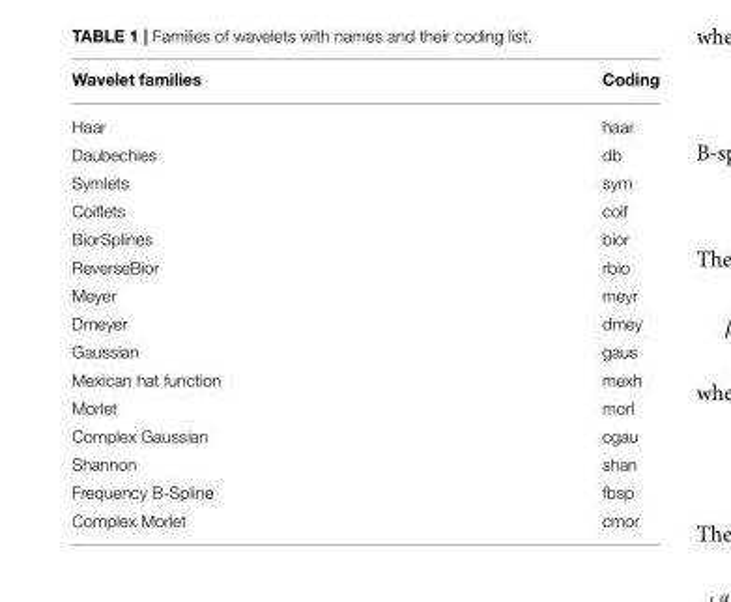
<table><thead><tr><td>Wavelet families</td><td>Coding</td></tr></thead><tbody><tr><td>Haar</td><td>haar</td></tr><tr><td>Daubechies</td><td>db</td></tr><tr><td>Symlets</td><td>sym</td></tr><tr><td>Coiflets</td><td>coif</td></tr><tr><td>BiorSplines</td><td>bior</td></tr><tr><td>ReverseBior</td><td>rbio</td></tr><tr><td>Meyer</td><td>meyr</td></tr><tr><td>Dmeyer</td><td>dmey</td></tr><tr><td>Gaussian</td><td>gaus</td></tr><tr><td>Mexican hat function</td><td>mexh</td></tr><tr><td>Morlet</td><td>morl</td></tr><tr><td>Complex Gaussian</td><td>cgau</td></tr><tr><td>Shannon</td><td>shan</td></tr><tr><td>Frequency B-Spline</td><td>fbsp</td></tr><tr><td>Complex Morlet</td><td>cmor</td></tr></tbody></table>